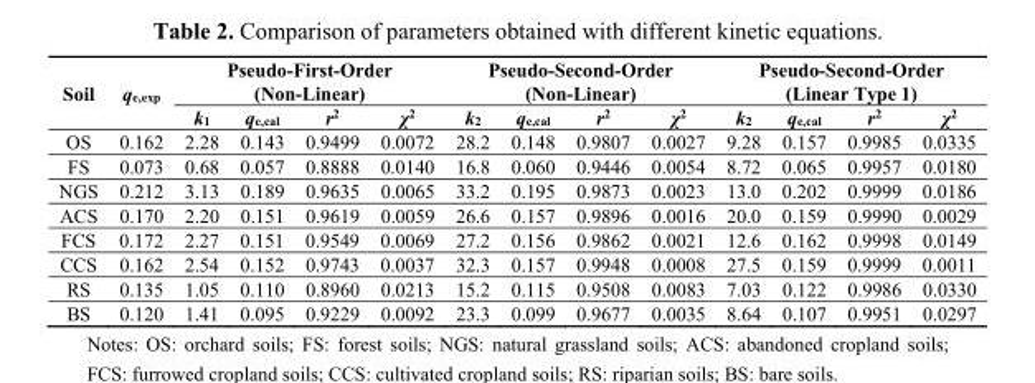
<table><thead><tr><td rowspan="2">Soil</td><td rowspan="2">q<sub>e,exp</sub></td><td colspan="4">Pseudo-First-Order (Non-Linear)</td><td colspan="4">Pseudo-Second-Order (Non-Linear)</td><td colspan="4">Pseudo-Second-Order (Linear Type 1)</td></tr><tr><td>k<sub>1</sub></td><td>q<sub>e,cal</sub></td><td>r<sup>2</sup></td><td>χ<sup>2</sup></td><td>k<sub>2</sub></td><td>q<sub>e,cal</sub></td><td>r<sup>2</sup></td><td>χ<sup>2</sup></td><td>k<sub>2</sub></td><td>q<sub>e,cal</sub></td><td>r<sup>2</sup></td><td>χ<sup>2</sup></td></tr></thead><tbody><tr><td>OS</td><td>0.162</td><td>2.28</td><td>0.143</td><td>0.9499</td><td>0.0072</td><td>28.2</td><td>0.148</td><td>0.9807</td><td>0.0027</td><td>9.28</td><td>0.157</td><td>0.9985</td><td>0.0335</td></tr><tr><td>FS</td><td>0.073</td><td>0.68</td><td>0.057</td><td>0.8888</td><td>0.0140</td><td>16.8</td><td>0.060</td><td>0.9446</td><td>0.0054</td><td>8.72</td><td>0.065</td><td>0.9957</td><td>0.0180</td></tr><tr><td>NGS</td><td>0.212</td><td>3.13</td><td>0.189</td><td>0.9635</td><td>0.0065</td><td>33.2</td><td>0.195</td><td>0.9873</td><td>0.0023</td><td>13.0</td><td>0.202</td><td>0.9999</td><td>0.0186</td></tr><tr><td>ACS</td><td>0.170</td><td>2.20</td><td>0.151</td><td>0.9619</td><td>0.0059</td><td>26.6</td><td>0.157</td><td>0.9896</td><td>0.0016</td><td>20.0</td><td>0.159</td><td>0.9990</td><td>0.0029</td></tr><tr><td>FCS</td><td>0.172</td><td>2.27</td><td>0.151</td><td>0.9549</td><td>0.0069</td><td>27.2</td><td>0.156</td><td>0.9862</td><td>0.0021</td><td>12.6</td><td>0.162</td><td>0.9998</td><td>0.0149</td></tr><tr><td>CCS</td><td>0.162</td><td>2.54</td><td>0.152</td><td>0.9743</td><td>0.0037</td><td>32.3</td><td>0.157</td><td>0.9948</td><td>0.0008</td><td>27.5</td><td>0.159</td><td>0.9999</td><td>0.0011</td></tr><tr><td>RS</td><td>0.135</td><td>1.05</td><td>0.110</td><td>0.8960</td><td>0.0213</td><td>15.2</td><td>0.115</td><td>0.9508</td><td>0.0083</td><td>7.03</td><td>0.122</td><td>0.9986</td><td>0.0330</td></tr><tr><td>BS</td><td>0.120</td><td>1.41</td><td>0.095</td><td>0.9229</td><td>0.0092</td><td>23.3</td><td>0.099</td><td>0.9677</td><td>0.0035</td><td>8.64</td><td>0.107</td><td>0.9951</td><td>0.0297</td></tr></tbody></table>